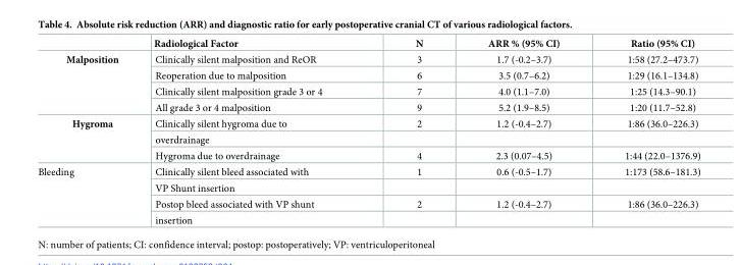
<table><thead><tr><td></td><td>Radiological Factor</td><td>N</td><td>ARR % (95% CI)</td><td>Ratio (95% CI)</td></tr></thead><tbody><tr><td rowspan="4">Malposition</td><td>Clinically silent malposition and ReOR</td><td>3</td><td>1.7 (-0.2–3.7)</td><td>1:58 (27.2–473.7)</td></tr><tr><td>Reoperation due to malposition</td><td>6</td><td>3.5 (0.7–6.2)</td><td>1:29 (16.1–134.8)</td></tr><tr><td>Clinically silent malposition grade 3 or 4</td><td>7</td><td>4.0 (1.1–7.0)</td><td>1:25 (14.3–90.1)</td></tr><tr><td>All grade 3 or 4 malposition</td><td>9</td><td>5.2 (1.9–8.5)</td><td>1:20 (11.7–52.8)</td></tr><tr><td rowspan="3">Hygroma</td><td>Clinically silent hygroma due to</td><td>2</td><td>1.2 (-0.4–2.7)</td><td>1:86 (36.0–226.3)</td></tr><tr><td>overdrainage</td><td></td><td></td><td></td></tr><tr><td>Hygroma due to overdrainage</td><td>4</td><td>2.3 (0.07–4.5)</td><td>1:44 (22.0–1376.9)</td></tr><tr><td rowspan="4">Bleeding</td><td>Clinically silent bleed associated with</td><td>1</td><td>0.6 (-0.5–1.7)</td><td>1:173 (58.6–181.3)</td></tr><tr><td>VP Shunt insertion</td><td></td><td></td><td></td></tr><tr><td>Postop bleed associated with VP shunt</td><td>2</td><td>1.2 (-0.4–2.7)</td><td>1:86 (36.0–226.3)</td></tr><tr><td>insertion</td><td></td><td></td><td></td></tr></tbody></table>